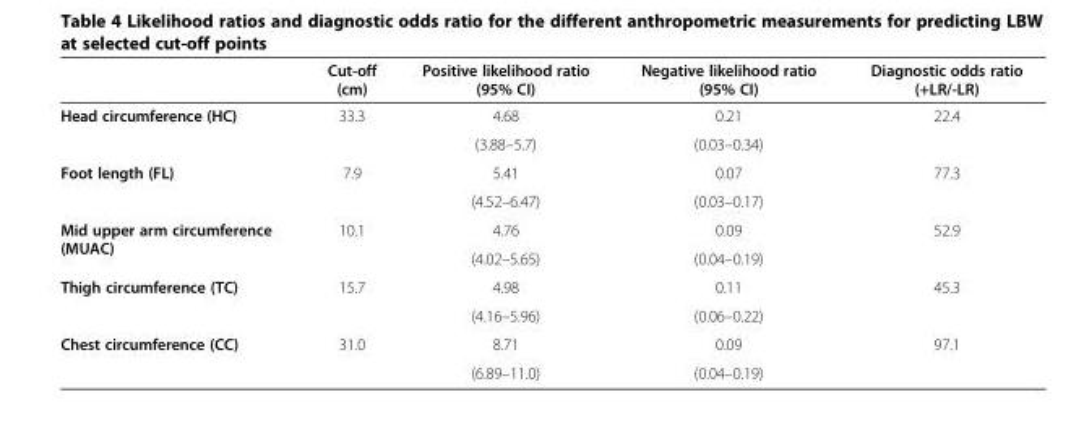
<table><thead><tr><td></td><td>Cut-off (cm)</td><td>Positive likelihood ratio (95% CI)</td><td>Negative likelihood ratio (95% CI)</td><td>Diagnostic odds ratio (+LR/-LR)</td></tr></thead><tbody><tr><td rowspan="2">Head circumference (HC)</td><td rowspan="2">33.3</td><td>4.68</td><td>0.21</td><td rowspan="2">22.4</td></tr><tr><td>(3.88–5.7)</td><td>(0.03–0.34)</td></tr><tr><td rowspan="2">Foot length (FL)</td><td rowspan="2">7.9</td><td>5.41</td><td>0.07</td><td rowspan="2">77.3</td></tr><tr><td>(4.52–6.47)</td><td>(0.03–0.17)</td></tr><tr><td rowspan="2">Mid upper arm circumference (MUAC)</td><td rowspan="2">10.1</td><td>4.76</td><td>0.09</td><td rowspan="2">52.9</td></tr><tr><td>(4.02–5.65)</td><td>(0.04–0.19)</td></tr><tr><td rowspan="2">Thigh circumference (TC)</td><td rowspan="2">15.7</td><td>4.98</td><td>0.11</td><td rowspan="2">45.3</td></tr><tr><td>(4.16–5.96)</td><td>(0.06–0.22)</td></tr><tr><td rowspan="2">Chest circumference (CC)</td><td>31.0</td><td>8.71</td><td>0.09</td><td>97.1</td></tr><tr><td></td><td>(6.89–11.0)</td><td>(0.04–0.19)</td><td></td></tr></tbody></table>